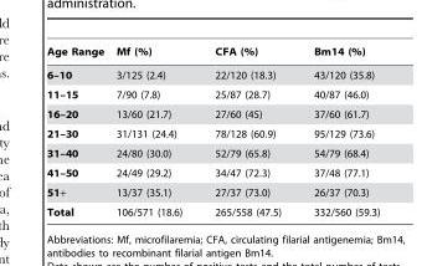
<table><thead><tr><td>Age Range</td><td>Mf (%)</td><td>CFA (%)</td><td>Bm14 (%)</td></tr></thead><tbody><tr><td>6–10</td><td>3/125 (2.4)</td><td>22/120 (18.3)</td><td>43/120 (35.8)</td></tr><tr><td>11–15</td><td>7/90 (7.8)</td><td>25/87 (28.7)</td><td>40/87 (46.0)</td></tr><tr><td>16–20</td><td>13/60 (21.7)</td><td>27/60 (45)</td><td>37/60 (61.7)</td></tr><tr><td>21–30</td><td>31/131 (24.4)</td><td>78/128 (60.9)</td><td>95/129 (73.6)</td></tr><tr><td>31–40</td><td>24/80 (30.0)</td><td>52/79 (65.8)</td><td>54/79 (68.4)</td></tr><tr><td>41–50</td><td>24/49 (29.2)</td><td>34/47 (72.3)</td><td>37/48 (77.1)</td></tr><tr><td>51+</td><td>13/37 (35.1)</td><td>27/37 (73.0)</td><td>26/37 (70.3)</td></tr><tr><td>Total</td><td>106/571 (18.6)</td><td>265/558 (47.5)</td><td>332/560 (59.3)</td></tr></tbody></table>